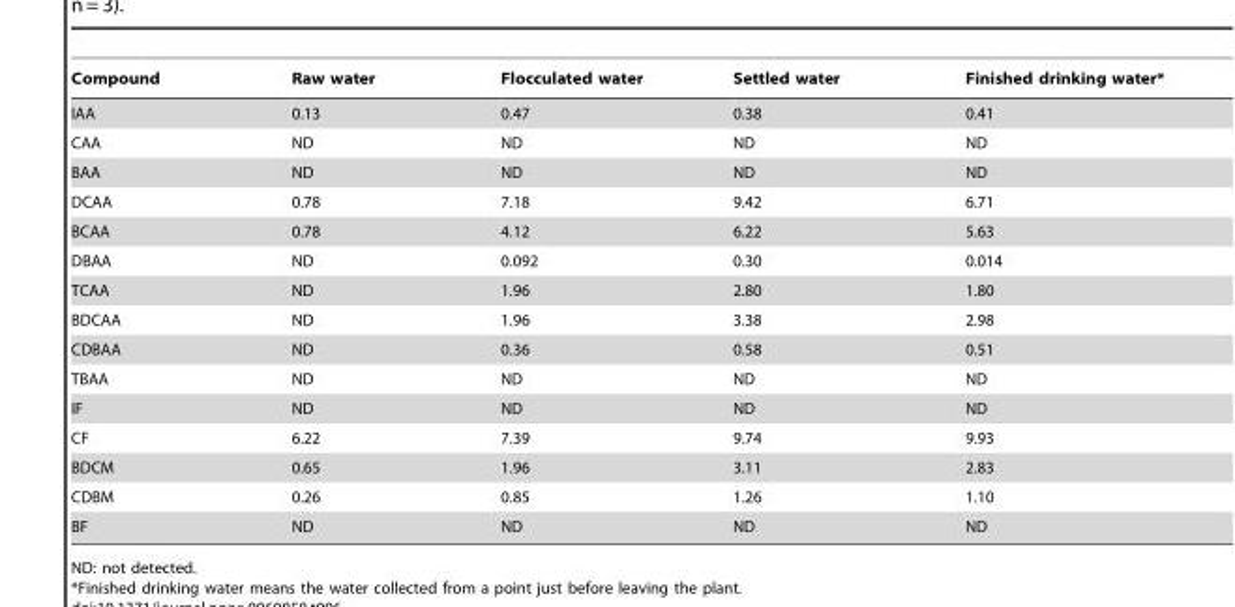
<table><thead><tr><td>Compound</td><td>Raw water</td><td>Flocculated water</td><td>Settled water</td><td>Finished drinking water*</td></tr></thead><tbody><tr><td>IAA</td><td>0.13</td><td>0.47</td><td>0.38</td><td>0.41</td></tr><tr><td>CAA</td><td>ND</td><td>ND</td><td>ND</td><td>ND</td></tr><tr><td>BAA</td><td>ND</td><td>ND</td><td>ND</td><td>ND</td></tr><tr><td>DCAA</td><td>0.78</td><td>7.18</td><td>9.42</td><td>6.71</td></tr><tr><td>BCAA</td><td>0.78</td><td>4.12</td><td>6.22</td><td>5.63</td></tr><tr><td>DBAA</td><td>ND</td><td>0.092</td><td>0.30</td><td>0.014</td></tr><tr><td>TCAA</td><td>ND</td><td>1.96</td><td>2.80</td><td>1.80</td></tr><tr><td>BDCAA</td><td>ND</td><td>1.96</td><td>3.38</td><td>2.98</td></tr><tr><td>CDBAA</td><td>ND</td><td>0.36</td><td>0.58</td><td>0.51</td></tr><tr><td>TBAA</td><td>ND</td><td>ND</td><td>ND</td><td>ND</td></tr><tr><td>IF</td><td>ND</td><td>ND</td><td>ND</td><td>ND</td></tr><tr><td>CF</td><td>6.22</td><td>7.39</td><td>9.74</td><td>9.93</td></tr><tr><td>BDCM</td><td>0.65</td><td>1.96</td><td>3.11</td><td>2.83</td></tr><tr><td>CDBM</td><td>0.26</td><td>0.85</td><td>1.26</td><td>1.10</td></tr><tr><td>BF</td><td>ND</td><td>ND</td><td>ND</td><td>ND</td></tr></tbody></table>